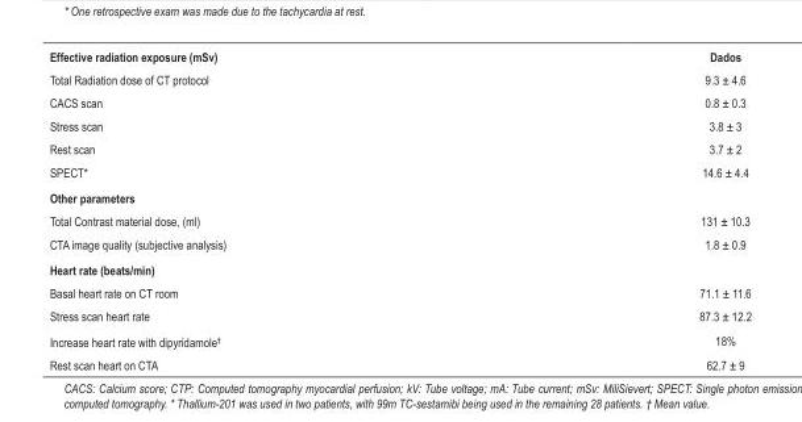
<table><thead><tr><td>Effective radiation exposure (mSv)</td><td>Dados</td></tr></thead><tbody><tr><td>Total Radiation dose of CT protocol</td><td>9.3 ± 4.6</td></tr><tr><td>CACS scan</td><td>0.8 ± 0.3</td></tr><tr><td>Stress scan</td><td>3.8 ± 3</td></tr><tr><td>Rest scan</td><td>3.7 ± 2</td></tr><tr><td>SPECT*</td><td>14.6 ± 4.4</td></tr><tr><td colspan="2">Other parameters</td></tr><tr><td>Total Contrast material dose, (ml)</td><td>131 ± 10.3</td></tr><tr><td>CTA image quality (subjective analysis)</td><td>1.8 ± 0.9</td></tr><tr><td colspan="2">Heart rate (beats/min)</td></tr><tr><td>Basal heart rate on CT room</td><td>71.1 ± 11.6</td></tr><tr><td>Stress scan heart rate</td><td>87.3 ± 12.2</td></tr><tr><td>Increase heart rate with dipyridamole†</td><td>18%</td></tr><tr><td>Rest scan heart on CTA</td><td>62.7 ± 9</td></tr></tbody></table>